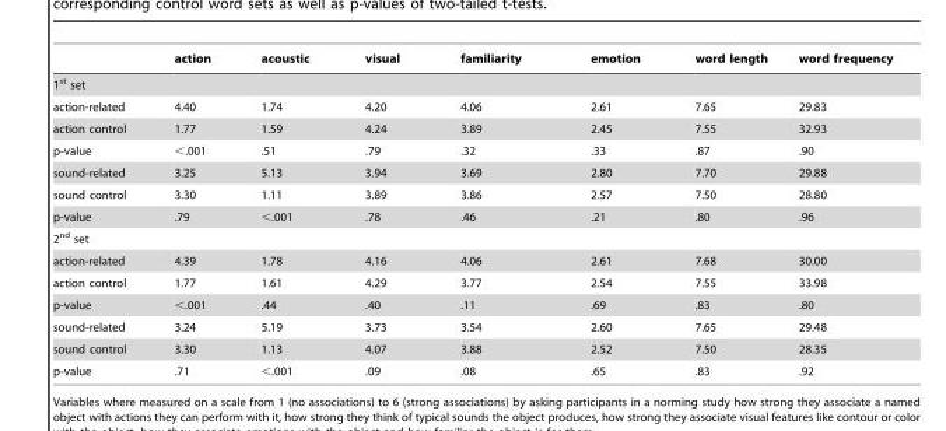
<table><thead><tr><td></td><td>action</td><td>acoustic</td><td>visual</td><td>familiarity</td><td>emotion</td><td>word length</td><td>word frequency</td></tr></thead><tbody><tr><td colspan="8">1<sup>st</sup> set</td></tr><tr><td>action-related</td><td>4.40</td><td>1.74</td><td>4.20</td><td>4.06</td><td>2.61</td><td>7.65</td><td>29.83</td></tr><tr><td>action control</td><td>1.77</td><td>1.59</td><td>4.24</td><td>3.89</td><td>2.45</td><td>7.55</td><td>32.93</td></tr><tr><td>p-value</td><td>&lt;.001</td><td>.51</td><td>.79</td><td>.32</td><td>.33</td><td>.87</td><td>.90</td></tr><tr><td>sound-related</td><td>3.25</td><td>5.13</td><td>3.94</td><td>3.69</td><td>2.80</td><td>7.70</td><td>29.88</td></tr><tr><td>sound control</td><td>3.30</td><td>1.11</td><td>3.89</td><td>3.86</td><td>2.57</td><td>7.50</td><td>28.80</td></tr><tr><td>p-value</td><td>.79</td><td>&lt;.001</td><td>.78</td><td>.46</td><td>.21</td><td>.80</td><td>.96</td></tr><tr><td colspan="8">2<sup>nd</sup> set</td></tr><tr><td>action-related</td><td>4.39</td><td>1.78</td><td>4.16</td><td>4.06</td><td>2.61</td><td>7.68</td><td>30.00</td></tr><tr><td>action control</td><td>1.77</td><td>1.61</td><td>4.29</td><td>3.77</td><td>2.54</td><td>7.55</td><td>33.98</td></tr><tr><td>p-value</td><td>&lt;.001</td><td>.44</td><td>.40</td><td>.11</td><td>.69</td><td>.83</td><td>.80</td></tr><tr><td>sound-related</td><td>3.24</td><td>5.19</td><td>3.73</td><td>3.54</td><td>2.60</td><td>7.65</td><td>29.48</td></tr><tr><td>sound control</td><td>3.30</td><td>1.13</td><td>4.07</td><td>3.88</td><td>2.52</td><td>7.50</td><td>28.35</td></tr><tr><td>p-value</td><td>.71</td><td>&lt;.001</td><td>.09</td><td>.08</td><td>.65</td><td>.83</td><td>.92</td></tr></tbody></table>